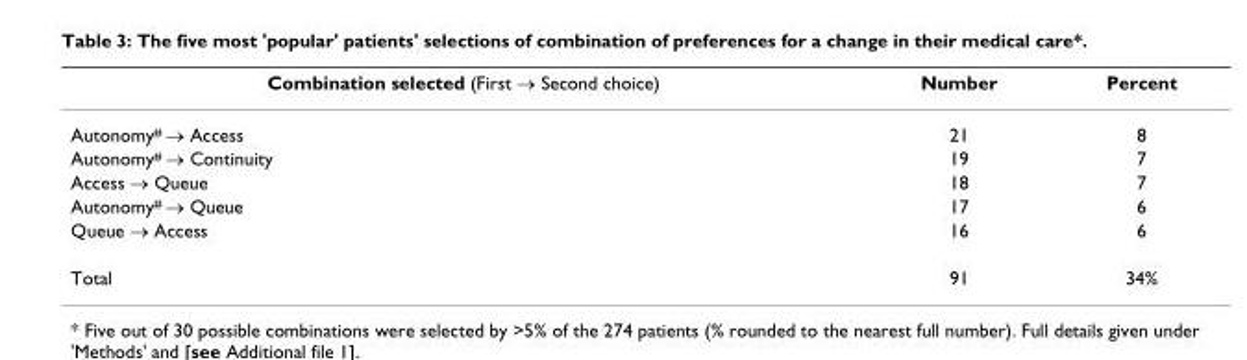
<table><thead><tr><td>Combination selected (First → Second choice)</td><td>Number</td><td>Percent</td></tr></thead><tbody><tr><td>Autonomy# → Access</td><td>21</td><td>8</td></tr><tr><td>Autonomy# → Continuity</td><td>19</td><td>7</td></tr><tr><td>Access → Queue</td><td>18</td><td>7</td></tr><tr><td>Autonomy# → Queue</td><td>17</td><td>6</td></tr><tr><td>Queue → Access</td><td>16</td><td>6</td></tr><tr><td>Total</td><td>91</td><td>34%</td></tr></tbody></table>